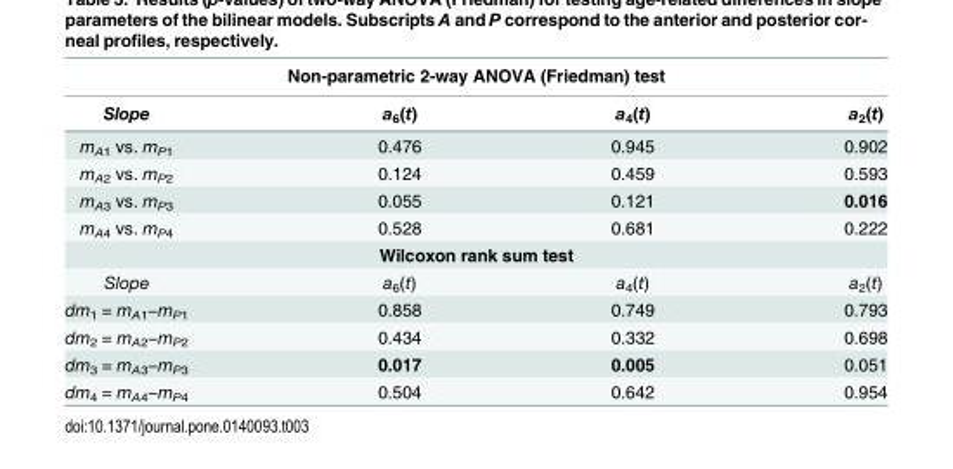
<table><thead><tr><td colspan="4">Non-parametric 2-way ANOVA (Friedman) test</td></tr><tr><td>Slope</td><td>a<sub>6</sub>(t)</td><td>a<sub>4</sub>(t)</td><td>a<sub>2</sub>(t)</td></tr></thead><tbody><tr><td>m<sub>A1</sub> vs. m<sub>P1</sub></td><td>0.476</td><td>0.945</td><td>0.902</td></tr><tr><td>m<sub>A2</sub> vs. m<sub>P2</sub></td><td>0.124</td><td>0.459</td><td>0.593</td></tr><tr><td>m<sub>A3</sub> vs. m<sub>P3</sub></td><td>0.055</td><td>0.121</td><td>0.016</td></tr><tr><td>m<sub>A4</sub> vs. m<sub>P4</sub></td><td>0.528</td><td>0.681</td><td>0.222</td></tr><tr><td colspan="4">Wilcoxon rank sum test</td></tr><tr><td>Slope</td><td>a<sub>6</sub>(t)</td><td>a<sub>4</sub>(t)</td><td>a<sub>2</sub>(t)</td></tr><tr><td>dm<sub>1</sub> = m<sub>A1</sub>−m<sub>P1</sub></td><td>0.858</td><td>0.749</td><td>0.793</td></tr><tr><td>dm<sub>2</sub> = m<sub>A2</sub>−m<sub>P2</sub></td><td>0.434</td><td>0.332</td><td>0.698</td></tr><tr><td>dm<sub>3</sub> = m<sub>A3</sub>−m<sub>P3</sub></td><td>0.017</td><td>0.005</td><td>0.051</td></tr><tr><td>dm<sub>4</sub> = m<sub>A4</sub>−m<sub>P4</sub></td><td>0.504</td><td>0.642</td><td>0.954</td></tr></tbody></table>